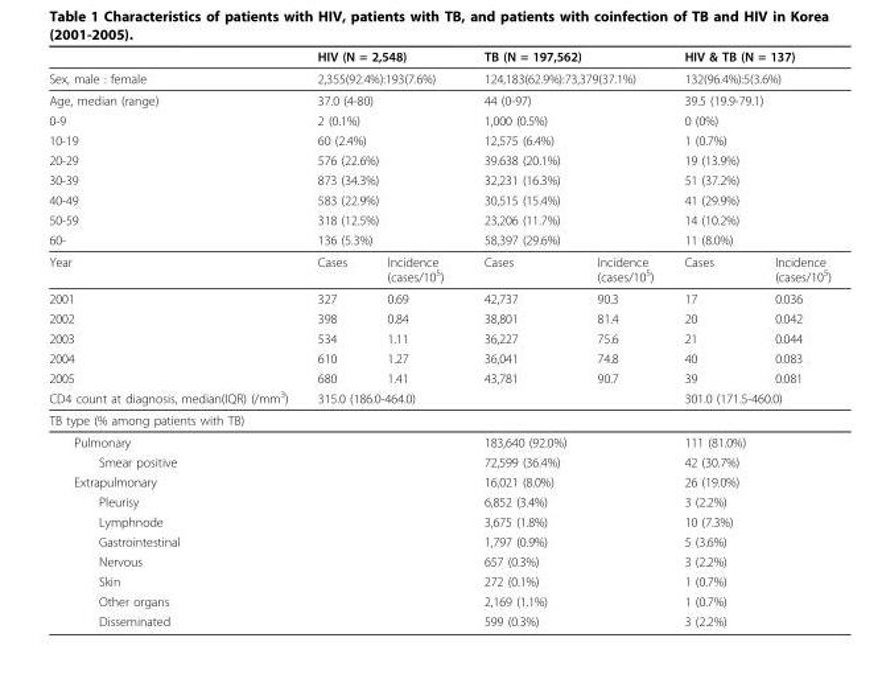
<table><thead><tr><td></td><td colspan="2">HIV (N = 2,548)</td><td colspan="2">TB (N = 197,562)</td><td colspan="2">HIV &amp; TB (N = 137)</td></tr></thead><tbody><tr><td>Sex, male : female</td><td colspan="2">2,355(92.4%):193(7.6%)</td><td colspan="2">124,183(62.9%):73,379(37.1%)</td><td colspan="2">132(96.4%):5(3.6%)</td></tr><tr><td>Age, median (range)</td><td colspan="2">37.0 (4-80)</td><td colspan="2">44 (0-97)</td><td colspan="2">39.5 (19.9-79.1)</td></tr><tr><td>0-9</td><td colspan="2">2 (0.1%)</td><td colspan="2">1,000 (0.5%)</td><td colspan="2">0 (0%)</td></tr><tr><td>10-19</td><td colspan="2">60 (2.4%)</td><td colspan="2">12,575 (6.4%)</td><td colspan="2">1 (0.7%)</td></tr><tr><td>20-29</td><td colspan="2">576 (22.6%)</td><td colspan="2">39.638 (20.1%)</td><td colspan="2">19 (13.9%)</td></tr><tr><td>30-39</td><td colspan="2">873 (34.3%)</td><td colspan="2">32,231 (16.3%)</td><td colspan="2">51 (37.2%)</td></tr><tr><td>40-49</td><td colspan="2">583 (22.9%)</td><td colspan="2">30,515 (15.4%)</td><td colspan="2">41 (29.9%)</td></tr><tr><td>50-59</td><td colspan="2">318 (12.5%)</td><td colspan="2">23,206 (11.7%)</td><td colspan="2">14 (10.2%)</td></tr><tr><td>60-</td><td colspan="2">136 (5.3%)</td><td colspan="2">58,397 (29.6%)</td><td colspan="2">11 (8.0%)</td></tr><tr><td>Year</td><td>Cases</td><td>Incidence (cases/10<sup>5</sup>)</td><td>Cases</td><td>Incidence (cases/10<sup>5</sup>)</td><td>Cases</td><td>Incidence (cases/10<sup>5</sup>)</td></tr><tr><td>2001</td><td>327</td><td>0.69</td><td>42,737</td><td>90.3</td><td>17</td><td>0.036</td></tr><tr><td>2002</td><td>398</td><td>0.84</td><td>38,801</td><td>81.4</td><td>20</td><td>0.042</td></tr><tr><td>2003</td><td>534</td><td>1.11</td><td>36,227</td><td>75.6</td><td>21</td><td>0.044</td></tr><tr><td>2004</td><td>610</td><td>1.27</td><td>36,041</td><td>74.8</td><td>40</td><td>0.083</td></tr><tr><td>2005</td><td>680</td><td>1.41</td><td>43,781</td><td>90.7</td><td>39</td><td>0.081</td></tr><tr><td>CD4 count at diagnosis, median(IQR) (/mm<sup>3</sup>)</td><td colspan="2">315.0 (186.0-464.0)</td><td></td><td></td><td colspan="2">301.0 (171.5-460.0)</td></tr><tr><td colspan="7">TB type (% among patients with TB)</td></tr><tr><td>Pulmonary</td><td></td><td></td><td>183,640 (92.0%)</td><td></td><td>111 (81.0%)</td><td></td></tr><tr><td>Smear positive</td><td></td><td></td><td>72,599 (36.4%)</td><td></td><td>42 (30.7%)</td><td></td></tr><tr><td>Extrapulmonary</td><td></td><td></td><td>16,021 (8.0%)</td><td></td><td>26 (19.0%)</td><td></td></tr><tr><td>Pleurisy</td><td></td><td></td><td>6,852 (3.4%)</td><td></td><td>3 (2.2%)</td><td></td></tr><tr><td>Lymphnode</td><td></td><td></td><td>3,675 (1.8%)</td><td></td><td>10 (7.3%)</td><td></td></tr><tr><td>Gastrointestinal</td><td></td><td></td><td>1,797 (0.9%)</td><td></td><td>5 (3.6%)</td><td></td></tr><tr><td>Nervous</td><td></td><td></td><td>657 (0.3%)</td><td></td><td>3 (2.2%)</td><td></td></tr><tr><td>Skin</td><td></td><td></td><td>272 (0.1%)</td><td></td><td>1 (0.7%)</td><td></td></tr><tr><td>Other organs</td><td></td><td></td><td>2,169 (1.1%)</td><td></td><td>1 (0.7%)</td><td></td></tr><tr><td>Disseminated</td><td></td><td></td><td>599 (0.3%)</td><td></td><td>3 (2.2%)</td><td></td></tr></tbody></table>